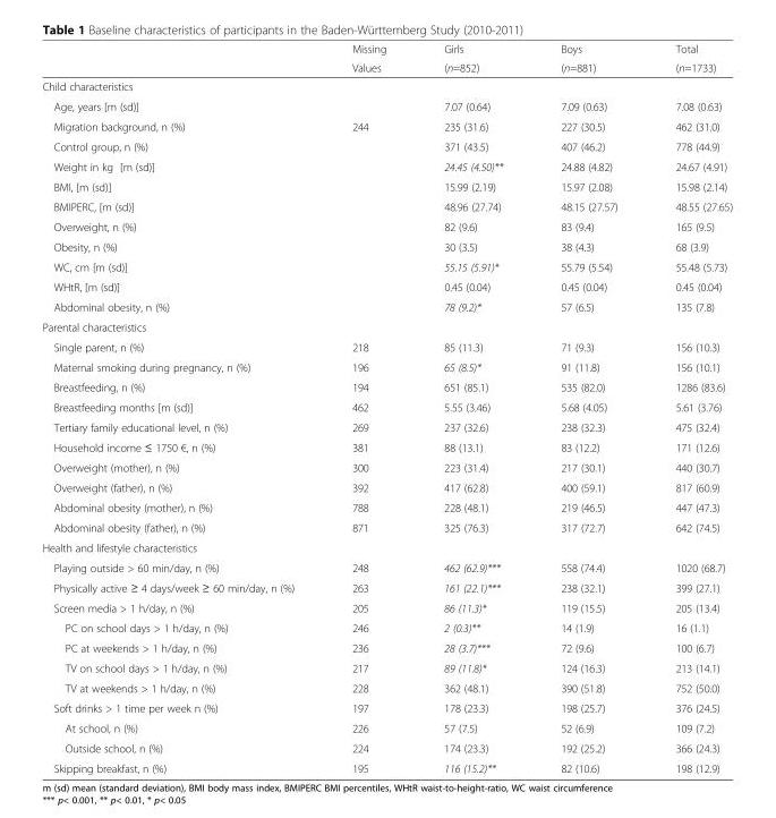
<table><thead><tr><td rowspan="2"></td><td rowspan="2">Missing Values</td><td rowspan="2">Girls (n=852)</td><td rowspan="2">Boys (n=881)</td><td rowspan="2">Total (n=1733)</td></tr><tr></tr></thead><tbody><tr><td colspan="5">Child characteristics</td></tr><tr><td>Age, years [m (sd)]</td><td></td><td>7.07 (0.64)</td><td>7.09 (0.63)</td><td>7.08 (0.63)</td></tr><tr><td>Migration background, n (%)</td><td>244</td><td>235 (31.6)</td><td>227 (30.5)</td><td>462 (31.0)</td></tr><tr><td>Control group, n (%)</td><td></td><td>371 (43.5)</td><td>407 (46.2)</td><td>778 (44.9)</td></tr><tr><td>Weight in kg [m (sd)]</td><td></td><td>24.45 (4.50)**</td><td>24.88 (4.82)</td><td>24.67 (4.91)</td></tr><tr><td>BMI, [m (sd)]</td><td></td><td>15.99 (2.19)</td><td>15.97 (2.08)</td><td>15.98 (2.14)</td></tr><tr><td>BMIPERC, [m (sd)]</td><td></td><td>48.96 (27.74)</td><td>48.15 (27.57)</td><td>48.55 (27.65)</td></tr><tr><td>Overweight, n (%)</td><td></td><td>82 (9.6)</td><td>83 (9.4)</td><td>165 (9.5)</td></tr><tr><td>Obesity, n (%)</td><td></td><td>30 (3.5)</td><td>38 (4.3)</td><td>68 (3.9)</td></tr><tr><td>WC, cm [m (sd)]</td><td></td><td>55.15 (5.91)*</td><td>55.79 (5.54)</td><td>55.48 (5.73)</td></tr><tr><td>WHtR, [m (sd)]</td><td></td><td>0.45 (0.04)</td><td>0.45 (0.04)</td><td>0.45 (0.04)</td></tr><tr><td>Abdominal obesity, n (%)</td><td></td><td>78 (9.2)*</td><td>57 (6.5)</td><td>135 (7.8)</td></tr><tr><td colspan="5">Parental characteristics</td></tr><tr><td>Single parent, n (%)</td><td>218</td><td>85 (11.3)</td><td>71 (9.3)</td><td>156 (10.3)</td></tr><tr><td>Maternal smoking during pregnancy, n (%)</td><td>196</td><td>65 (8.5)*</td><td>91 (11.8)</td><td>156 (10.1)</td></tr><tr><td>Breastfeeding, n (%)</td><td>194</td><td>651 (85.1)</td><td>535 (82.0)</td><td>1286 (83.6)</td></tr><tr><td>Breastfeeding months [m (sd)]</td><td>462</td><td>5.55 (3.46)</td><td>5.68 (4.05)</td><td>5.61 (3.76)</td></tr><tr><td>Tertiary family educational level, n (%)</td><td>269</td><td>237 (32.6)</td><td>238 (32.3)</td><td>475 (32.4)</td></tr><tr><td>Household income ≤ 1750 €, n (%)</td><td>381</td><td>88 (13.1)</td><td>83 (12.2)</td><td>171 (12.6)</td></tr><tr><td>Overweight (mother), n (%)</td><td>300</td><td>223 (31.4)</td><td>217 (30.1)</td><td>440 (30.7)</td></tr><tr><td>Overweight (father), n (%)</td><td>392</td><td>417 (62.8)</td><td>400 (59.1)</td><td>817 (60.9)</td></tr><tr><td>Abdominal obesity (mother), n (%)</td><td>788</td><td>228 (48.1)</td><td>219 (46.5)</td><td>447 (47.3)</td></tr><tr><td>Abdominal obesity (father), n (%)</td><td>871</td><td>325 (76.3)</td><td>317 (72.7)</td><td>642 (74.5)</td></tr><tr><td colspan="5">Health and lifestyle characteristics</td></tr><tr><td>Playing outside &gt; 60 min/day, n (%)</td><td>248</td><td>462 (62.9)***</td><td>558 (74.4)</td><td>1020 (68.7)</td></tr><tr><td>Physically active ≥ 4 days/week ≥ 60 min/day, n (%)</td><td>263</td><td>161 (22.1)***</td><td>238 (32.1)</td><td>399 (27.1)</td></tr><tr><td>Screen media &gt; 1 h/day, n (%)</td><td>205</td><td>86 (11.3)*</td><td>119 (15.5)</td><td>205 (13.4)</td></tr><tr><td>PC on school days &gt; 1 h/day, n (%)</td><td>246</td><td>2 (0.3)**</td><td>14 (1.9)</td><td>16 (1.1)</td></tr><tr><td>PC at weekends &gt; 1 h/day, n (%)</td><td>236</td><td>28 (3.7)***</td><td>72 (9.6)</td><td>100 (6.7)</td></tr><tr><td>TV on school days &gt; 1 h/day, n (%)</td><td>217</td><td>89 (11.8)*</td><td>124 (16.3)</td><td>213 (14.1)</td></tr><tr><td>TV at weekends &gt; 1 h/day, n (%)</td><td>228</td><td>362 (48.1)</td><td>390 (51.8)</td><td>752 (50.0)</td></tr><tr><td>Soft drinks &gt; 1 time per week n (%)</td><td>197</td><td>178 (23.3)</td><td>198 (25.7)</td><td>376 (24.5)</td></tr><tr><td>At school, n (%)</td><td>226</td><td>57 (7.5)</td><td>52 (6.9)</td><td>109 (7.2)</td></tr><tr><td>Outside school, n (%)</td><td>224</td><td>174 (23.3)</td><td>192 (25.2)</td><td>366 (24.3)</td></tr><tr><td>Skipping breakfast, n (%)</td><td>195</td><td>116 (15.2)**</td><td>82 (10.6)</td><td>198 (12.9)</td></tr></tbody></table>